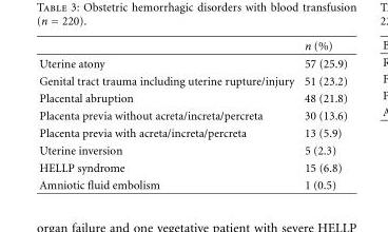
<table><thead><tr><td></td><td>n (%)</td></tr></thead><tbody><tr><td>Uterine atony</td><td>57 (25.9)</td></tr><tr><td>Genital tract trauma including uterine rupture/injury</td><td>51 (23.2)</td></tr><tr><td>Placental abruption</td><td>48 (21.8)</td></tr><tr><td>Placenta previa without acreta/increta/percreta</td><td>30 (13.6)</td></tr><tr><td>Placenta previa with acreta/increta/percreta</td><td>13 (5.9)</td></tr><tr><td>Uterine inversion</td><td>5 (2.3)</td></tr><tr><td>HELLP syndrome</td><td>15 (6.8)</td></tr><tr><td>Amniotic fluid embolism</td><td>1 (0.5)</td></tr></tbody></table>